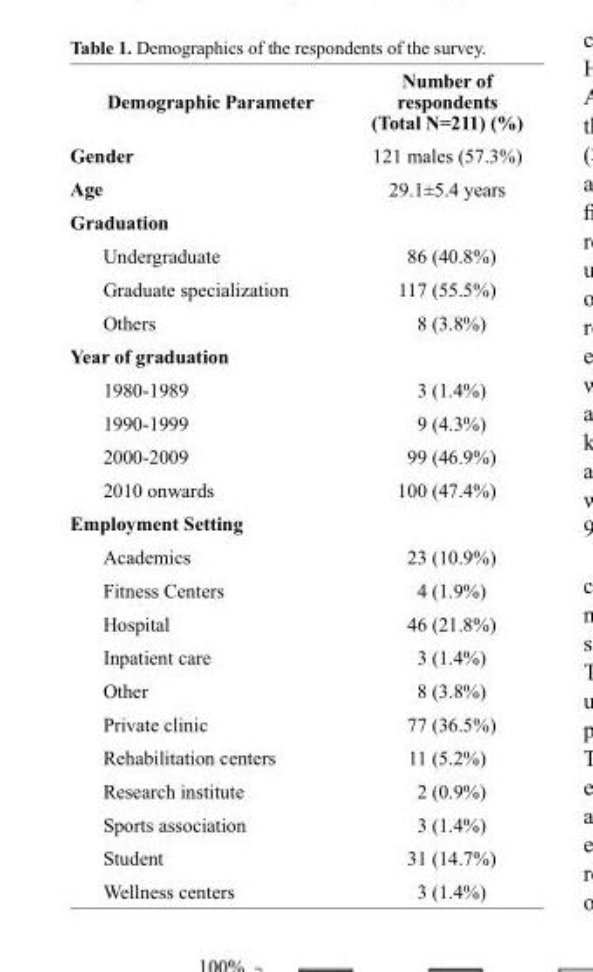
<table><thead><tr><td>Demographic Parameter</td><td>Number of respondents (Total N=211) (%)</td></tr></thead><tbody><tr><td>Gender</td><td>121 males (57.3%)</td></tr><tr><td>Age</td><td>29.1±5.4 years</td></tr><tr><td colspan="2">Graduation</td></tr><tr><td>Undergraduate</td><td>86 (40.8%)</td></tr><tr><td>Graduate specialization</td><td>117 (55.5%)</td></tr><tr><td>Others</td><td>8 (3.8%)</td></tr><tr><td colspan="2">Year of graduation</td></tr><tr><td>1980-1989</td><td>3 (1.4%)</td></tr><tr><td>1990-1999</td><td>9 (4.3%)</td></tr><tr><td>2000-2009</td><td>99 (46.9%)</td></tr><tr><td>2010 onwards</td><td>100 (47.4%)</td></tr><tr><td colspan="2">Employment Setting</td></tr><tr><td>Academics</td><td>23 (10.9%)</td></tr><tr><td>Fitness Centers</td><td>4 (1.9%)</td></tr><tr><td>Hospital</td><td>46 (21.8%)</td></tr><tr><td>Inpatient care</td><td>3 (1.4%)</td></tr><tr><td>Other</td><td>8 (3.8%)</td></tr><tr><td>Private clinic</td><td>77 (36.5%)</td></tr><tr><td>Rehabilitation centers</td><td>11 (5.2%)</td></tr><tr><td>Research institute</td><td>2 (0.9%)</td></tr><tr><td>Sports association</td><td>3 (1.4%)</td></tr><tr><td>Student</td><td>31 (14.7%)</td></tr><tr><td>Wellness centers</td><td>3 (1.4%)</td></tr></tbody></table>